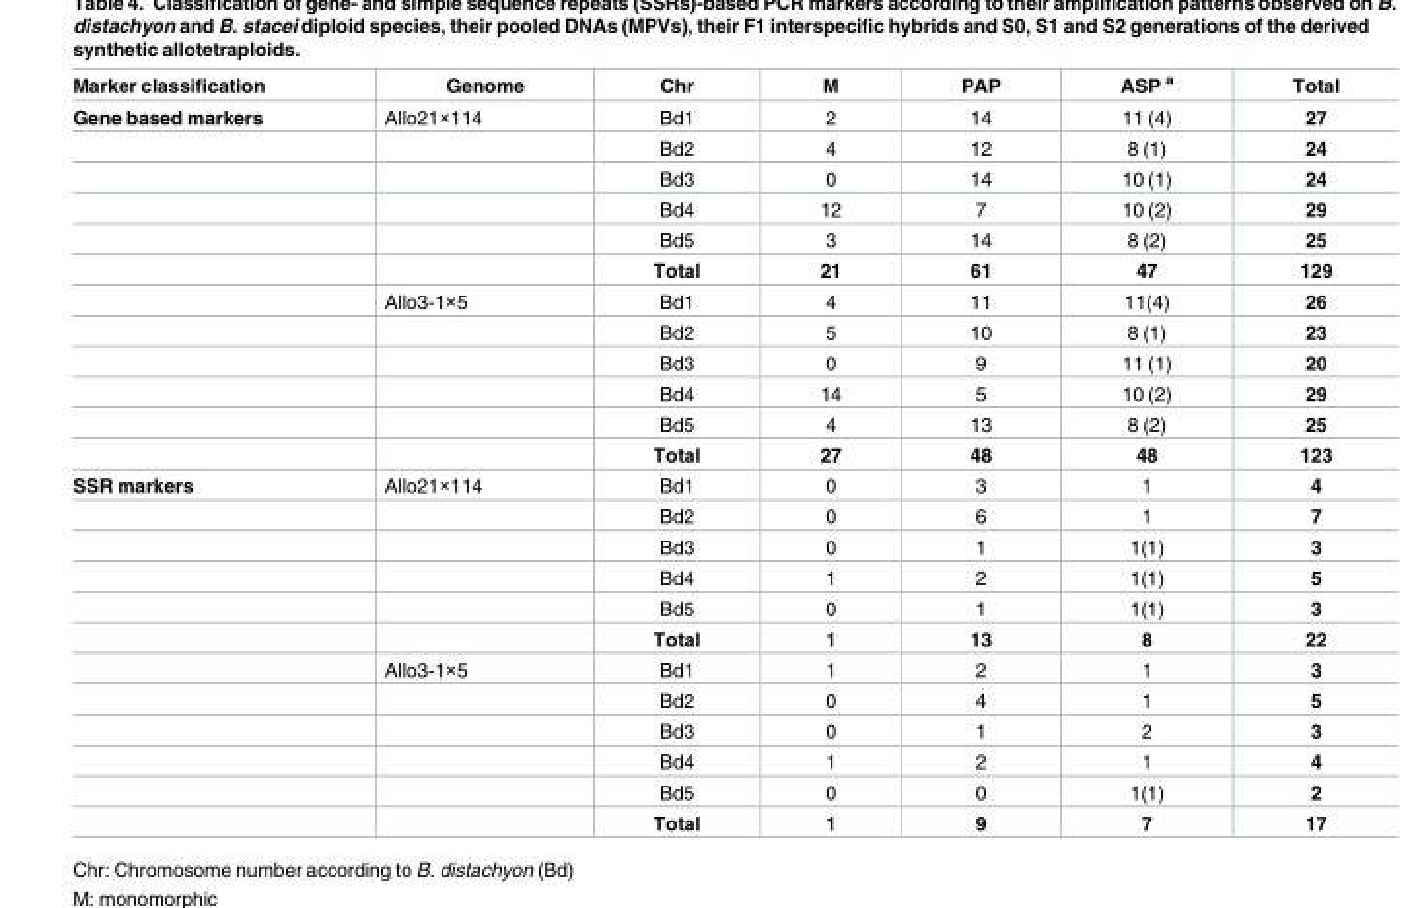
<table><thead><tr><td>Marker classification</td><td>Genome</td><td>Chr</td><td>M</td><td>PAP</td><td>ASP <sup>a</sup></td><td>Total</td></tr></thead><tbody><tr><td rowspan="12">Gene based markers</td><td>Allo21×114</td><td>Bd1</td><td>2</td><td>14</td><td>11 (4)</td><td>27</td></tr><tr><td></td><td>Bd2</td><td>4</td><td>12</td><td>8 (1)</td><td>24</td></tr><tr><td></td><td>Bd3</td><td>0</td><td>14</td><td>10 (1)</td><td>24</td></tr><tr><td></td><td>Bd4</td><td>12</td><td>7</td><td>10 (2)</td><td>29</td></tr><tr><td></td><td>Bd5</td><td>3</td><td>14</td><td>8 (2)</td><td>25</td></tr><tr><td></td><td>Total</td><td>21</td><td>61</td><td>47</td><td>129</td></tr><tr><td>Allo3-1×5</td><td>Bd1</td><td>4</td><td>11</td><td>11(4)</td><td>26</td></tr><tr><td></td><td>Bd2</td><td>5</td><td>10</td><td>8 (1)</td><td>23</td></tr><tr><td></td><td>Bd3</td><td>0</td><td>9</td><td>11 (1)</td><td>20</td></tr><tr><td></td><td>Bd4</td><td>14</td><td>5</td><td>10 (2)</td><td>29</td></tr><tr><td></td><td>Bd5</td><td>4</td><td>13</td><td>8 (2)</td><td>25</td></tr><tr><td></td><td>Total</td><td>27</td><td>48</td><td>48</td><td>123</td></tr><tr><td rowspan="12">SSR markers</td><td>Allo21×114</td><td>Bd1</td><td>0</td><td>3</td><td>1</td><td>4</td></tr><tr><td></td><td>Bd2</td><td>0</td><td>6</td><td>1</td><td>7</td></tr><tr><td></td><td>Bd3</td><td>0</td><td>1</td><td>1(1)</td><td>3</td></tr><tr><td></td><td>Bd4</td><td>1</td><td>2</td><td>1(1)</td><td>5</td></tr><tr><td></td><td>Bd5</td><td>0</td><td>1</td><td>1(1)</td><td>3</td></tr><tr><td></td><td>Total</td><td>1</td><td>13</td><td>8</td><td>22</td></tr><tr><td>Allo3-1×5</td><td>Bd1</td><td>1</td><td>2</td><td>1</td><td>3</td></tr><tr><td></td><td>Bd2</td><td>0</td><td>4</td><td>1</td><td>5</td></tr><tr><td></td><td>Bd3</td><td>0</td><td>1</td><td>2</td><td>3</td></tr><tr><td></td><td>Bd4</td><td>1</td><td>2</td><td>1</td><td>4</td></tr><tr><td></td><td>Bd5</td><td>0</td><td>0</td><td>1(1)</td><td>2</td></tr><tr><td></td><td>Total</td><td>1</td><td>9</td><td>7</td><td>17</td></tr></tbody></table>